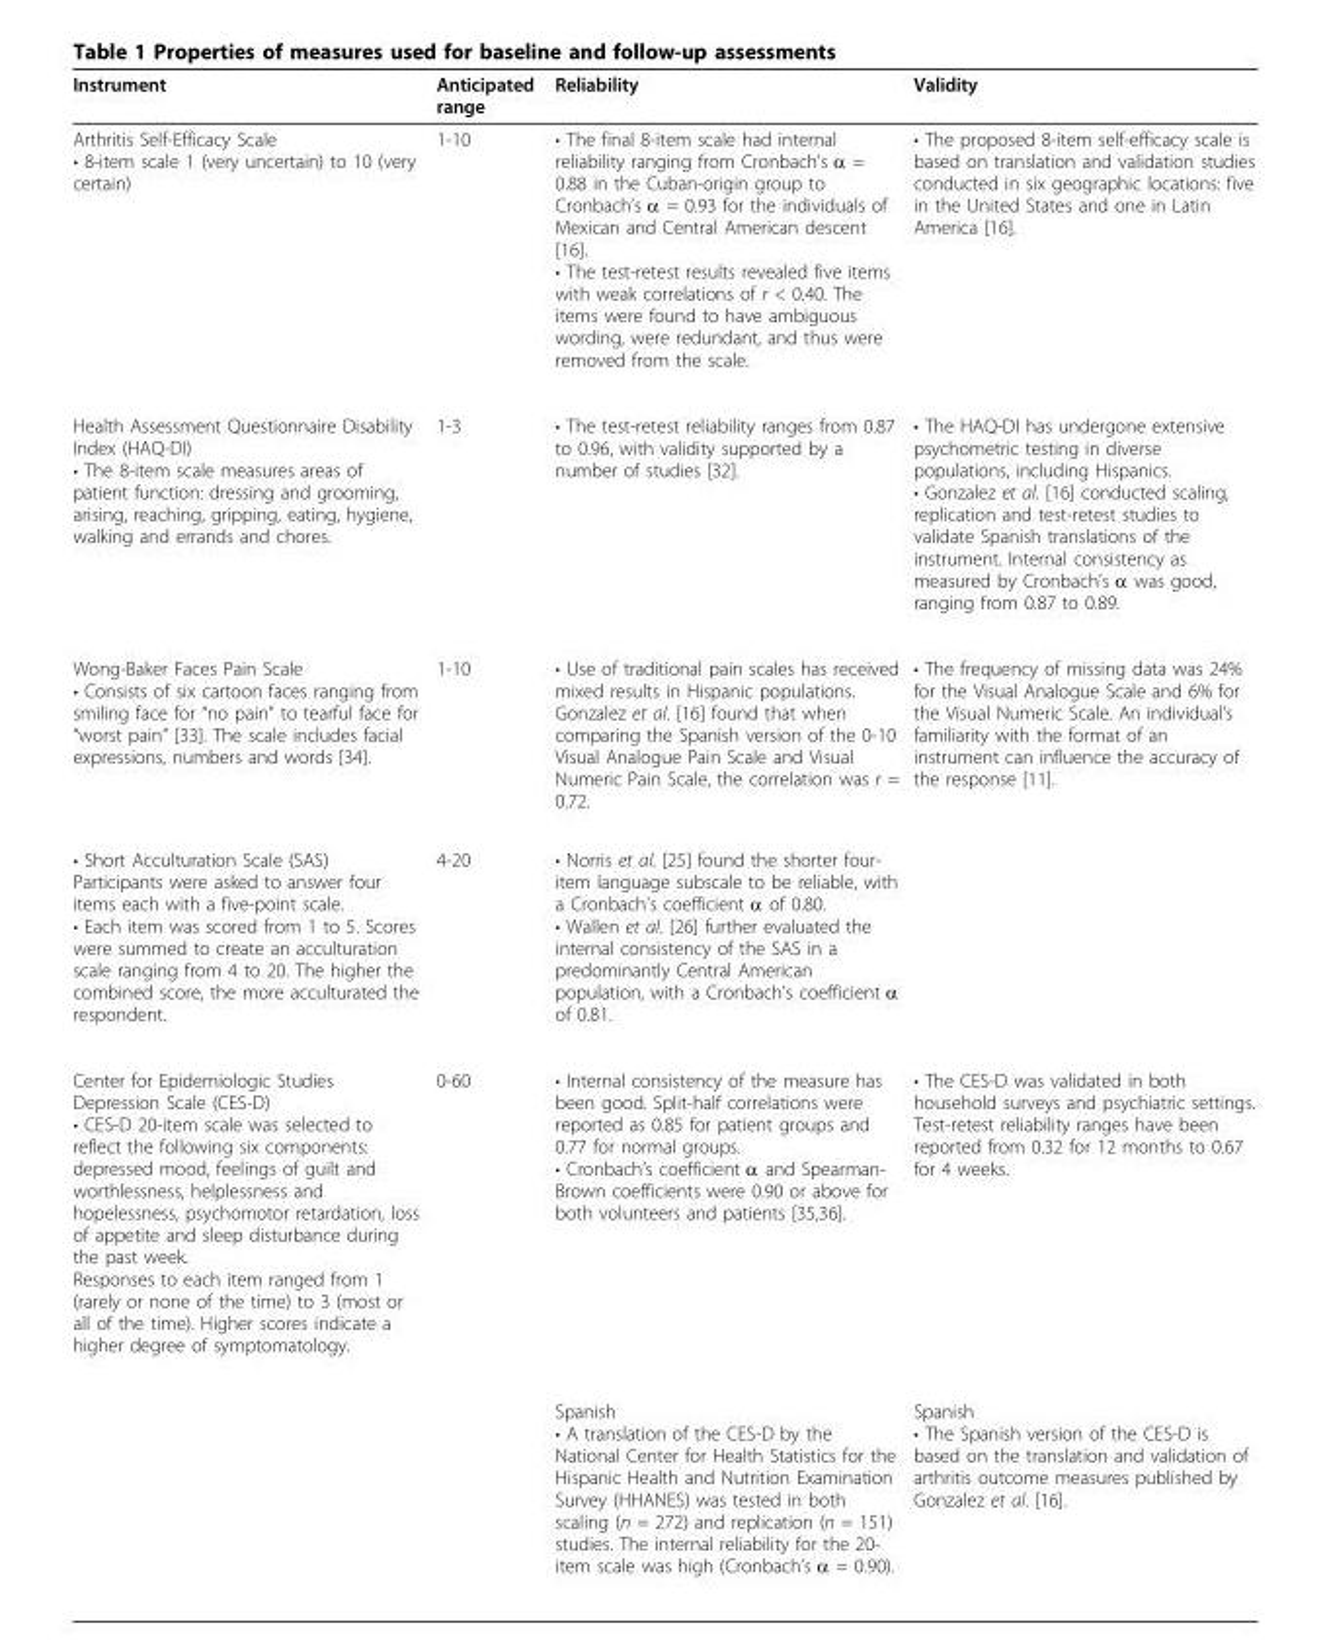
<table><thead><tr><td>Instrument</td><td>Anticipated range</td><td>Reliability</td><td>Validity</td></tr></thead><tbody><tr><td>Arthritis Self-Efficacy Scale • 8-item scale 1 (very uncertain) to 10 (very certain)</td><td>1-10</td><td>• The final 8-item scale had internal reliability ranging from Cronbach’s α = 0.88 in the Cuban-origin group to Cronbach’s α = 0.93 for the individuals of Mexican and Central American descent [16]. • The test-retest results revealed five items with weak correlations of r &lt; 0.40. The items were found to have ambiguous wording, were redundant, and thus were removed from the scale.</td><td>• The proposed 8-item self-efficacy scale is based on translation and validation studies conducted in six geographic locations: five in the United States and one in Latin America [16].</td></tr><tr><td>Health Assessment Questionnaire Disability Index (HAQ-DI) • The 8-item scale measures areas of patient function: dressing and grooming, arising, reaching, gripping, eating, hygiene, walking and errands and chores.</td><td>1-3</td><td>• The test-retest reliability ranges from 0.87 to 0.96, with validity supported by a number of studies [32].</td><td>• The HAQ-DI has undergone extensive psychometric testing in diverse populations, including Hispanics. • Gonzalez et al. [16] conducted scaling, replication and test-retest studies to validate Spanish translations of the instrument. Internal consistency as measured by Cronbach’s α was good, ranging from 0.87 to 0.89.</td></tr><tr><td>Wong-Baker Faces Pain Scale • Consists of six cartoon faces ranging from smiling face for “no pain” to tearful face for “worst pain” [33]. The scale includes facial expressions, numbers and words [34].</td><td>1-10</td><td>• Use of traditional pain scales has received mixed results in Hispanic populations. Gonzalez et al. [16] found that when comparing the Spanish version of the 0-10 Visual Analogue Pain Scale and Visual Numeric Pain Scale, the correlation was r = 0.72.</td><td>• The frequency of missing data was 24% for the Visual Analogue Scale and 6% for the Visual Numeric Scale. An individual’s familiarity with the format of an instrument can influence the accuracy of the response [11].</td></tr><tr><td>• Short Acculturation Scale (SAS) Participants were asked to answer four items each with a five-point scale. • Each item was scored from 1 to 5. Scores were summed to create an acculturation scale ranging from 4 to 20. The higher the combined score, the more acculturated the respondent.</td><td>4-20</td><td>• Norris et al. [25] found the shorter four- item language subscale to be reliable, with a Cronbach’s coefficient α of 0.80. • Wallen et al. [26] further evaluated the internal consistency of the SAS in a predominantly Central American population, with a Cronbach’s coefficient α of 0.81.</td><td></td></tr><tr><td rowspan="2">Center for Epidemiologic Studies Depression Scale (CES-D) • CES-D 20-item scale was selected to reflect the following six components: depressed mood, feelings of guilt and worthlessness, helplessness and hopelessness, psychomotor retardation, loss of appetite and sleep disturbance during the past week. Responses to each item ranged from 1 (rarely or none of the time) to 3 (most or all of the time). Higher scores indicate a higher degree of symptomatology.</td><td>0-60</td><td>• Internal consistency of the measure has been good. Split-half correlations were reported as 0.85 for patient groups and 0.77 for normal groups. • Cronbach’s coefficient α and Spearman- Brown coefficients were 0.90 or above for both volunteers and patients [35,36].</td><td>• The CES-D was validated in both household surveys and psychiatric settings. Test-retest reliability ranges have been reported from 0.32 for 12 months to 0.67 for 4 weeks.</td></tr><tr><td></td><td>Spanish • A translation of the CES-D by the National Center for Health Statistics for the Hispanic Health and Nutrition Examination Survey (HHANES) was tested in both scaling (n = 272) and replication (n = 151) studies. The internal reliability for the 20- item scale was high (Cronbach’s α = 0.90).</td><td>Spanish • The Spanish version of the CES-D is based on the translation and validation of arthritis outcome measures published by Gonzalez et al. [16].</td></tr></tbody></table>